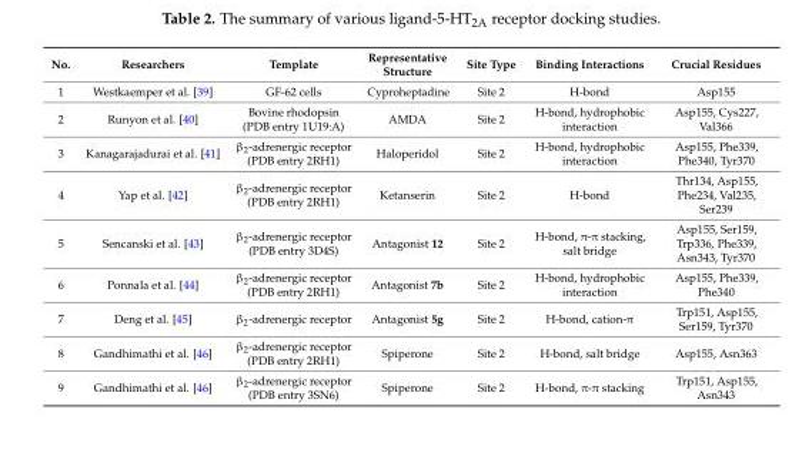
<table><thead><tr><td>No.</td><td>Researchers</td><td>Template</td><td>Representative Structure</td><td>Site Type</td><td>Binding Interactions</td><td>Crucial Residues</td></tr></thead><tbody><tr><td>1</td><td>Westkaemper et al. [39]</td><td>GF-62 cells</td><td>Cyproheptadine</td><td>Site 2</td><td>H-bond</td><td>Asp155</td></tr><tr><td>2</td><td>Runyon et al. [40]</td><td>Bovine rhodopsin (PDB entry 1U19:A)</td><td>AMDA</td><td>Site 2</td><td>H-bond, hydrophobic interaction</td><td>Asp155, Cys227, Val366</td></tr><tr><td>3</td><td>Kanagarajadurai et al. [41]</td><td>β<sub>2</sub>-adrenergic receptor (PDB entry 2RH1)</td><td>Haloperidol</td><td>Site 2</td><td>H-bond, hydrophobic interaction</td><td>Asp155, Phe339, Phe340, Tyr370</td></tr><tr><td>4</td><td>Yap et al. [42]</td><td>β<sub>2</sub>-adrenergic receptor (PDB entry 2RH1)</td><td>Ketanserin</td><td>Site 2</td><td>H-bond</td><td>Thr134, Asp155, Phe234, Val235, Ser239</td></tr><tr><td>5</td><td>Sencanski et al. [43]</td><td>β<sub>2</sub>-adrenergic receptor (PDB entry 3D4S)</td><td>Antagonist 12</td><td>Site 2</td><td>H-bond, π-π stacking, salt bridge</td><td>Asp155, Ser159, Trp336, Phe339, Asn343, Tyr370</td></tr><tr><td>6</td><td>Ponnala et al. [44]</td><td>β<sub>2</sub>-adrenergic receptor (PDB entry 2RH1)</td><td>Antagonist 7b</td><td>Site 2</td><td>H-bond, hydrophobic interaction</td><td>Asp155, Phe339, Phe340</td></tr><tr><td>7</td><td>Deng et al. [45]</td><td>β<sub>2</sub>-adrenergic receptor</td><td>Antagonist 5g</td><td>Site 2</td><td>H-bond, cation-π</td><td>Trp151, Asp155, Ser159, Tyr370</td></tr><tr><td>8</td><td>Gandhimathi et al. [46]</td><td>β<sub>2</sub>-adrenergic receptor (PDB entry 2RH1)</td><td>Spiperone</td><td>Site 2</td><td>H-bond, salt bridge</td><td>Asp155, Asn363</td></tr><tr><td>9</td><td>Gandhimathi et al. [46]</td><td>β<sub>2</sub>-adrenergic receptor (PDB entry 3SN6)</td><td>Spiperone</td><td>Site 2</td><td>H-bond, π-π stacking</td><td>Trp151, Asp155, Asn343</td></tr></tbody></table>